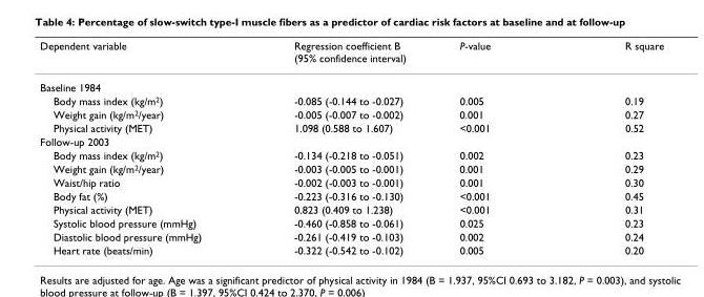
<table><thead><tr><td>Dependent variable</td><td>Regression coefficient B (95% confidence interval)</td><td>P-value</td><td>R square</td></tr></thead><tbody><tr><td colspan="4">Baseline 1984</td></tr><tr><td>Body mass index (kg/m<sup>2</sup>)</td><td>-0.085 (-0.144 to -0.027)</td><td>0.005</td><td>0.19</td></tr><tr><td>Weight gain (kg/m<sup>2</sup>/year)</td><td>-0.005 (-0.007 to -0.002)</td><td>0.001</td><td>0.27</td></tr><tr><td>Physical activity (MET)</td><td>1.098 (0.588 to 1.607)</td><td>&lt;0.001</td><td>0.52</td></tr><tr><td colspan="4">Follow-up 2003</td></tr><tr><td>Body mass index (kg/m<sup>2</sup>)</td><td>-0.134 (-0.218 to -0.051)</td><td>0.002</td><td>0.23</td></tr><tr><td>Weight gain (kg/m<sup>2</sup>/year)</td><td>-0.003 (-0.005 to -0.001)</td><td>0.001</td><td>0.29</td></tr><tr><td>Waist/hip ratio</td><td>-0.002 (-0.003 to -0.001)</td><td>0.001</td><td>0.30</td></tr><tr><td>Body fat (%)</td><td>-0.223 (-0.316 to -0.130)</td><td>&lt;0.001</td><td>0.45</td></tr><tr><td>Physical activity (MET)</td><td>0.823 (0.409 to 1.238)</td><td>&lt;0.001</td><td>0.31</td></tr><tr><td>Systolic blood pressure (mmHg)</td><td>-0.460 (-0.858 to -0.061)</td><td>0.025</td><td>0.23</td></tr><tr><td>Diastolic blood pressure (mmHg)</td><td>-0.261 (-0.419 to -0.103)</td><td>0.002</td><td>0.24</td></tr><tr><td>Heart rate (beats/min)</td><td>-0.322 (-0.542 to -0.102)</td><td>0.005</td><td>0.20</td></tr></tbody></table>